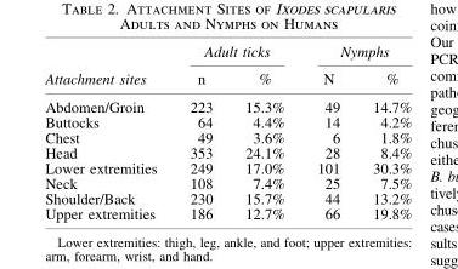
<table><thead><tr><td rowspan="2">Attachment sites</td><td colspan="2">Adult ticks</td><td colspan="2">Nymphs</td></tr><tr><td>n</td><td>%</td><td>N</td><td>%</td></tr></thead><tbody><tr><td>Abdomen/Groin</td><td>223</td><td>15.3%</td><td>49</td><td>14.7%</td></tr><tr><td>Buttocks</td><td>64</td><td>4.4%</td><td>14</td><td>4.2%</td></tr><tr><td>Chest</td><td>49</td><td>3.6%</td><td>6</td><td>1.8%</td></tr><tr><td>Head</td><td>353</td><td>24.1%</td><td>28</td><td>8.4%</td></tr><tr><td>Lower extremities</td><td>249</td><td>17.0%</td><td>101</td><td>30.3%</td></tr><tr><td>Neck</td><td>108</td><td>7.4%</td><td>25</td><td>7.5%</td></tr><tr><td>Shoulder/Back</td><td>230</td><td>15.7%</td><td>44</td><td>13.2%</td></tr><tr><td>Upper extremities</td><td>186</td><td>12.7%</td><td>66</td><td>19.8%</td></tr></tbody></table>